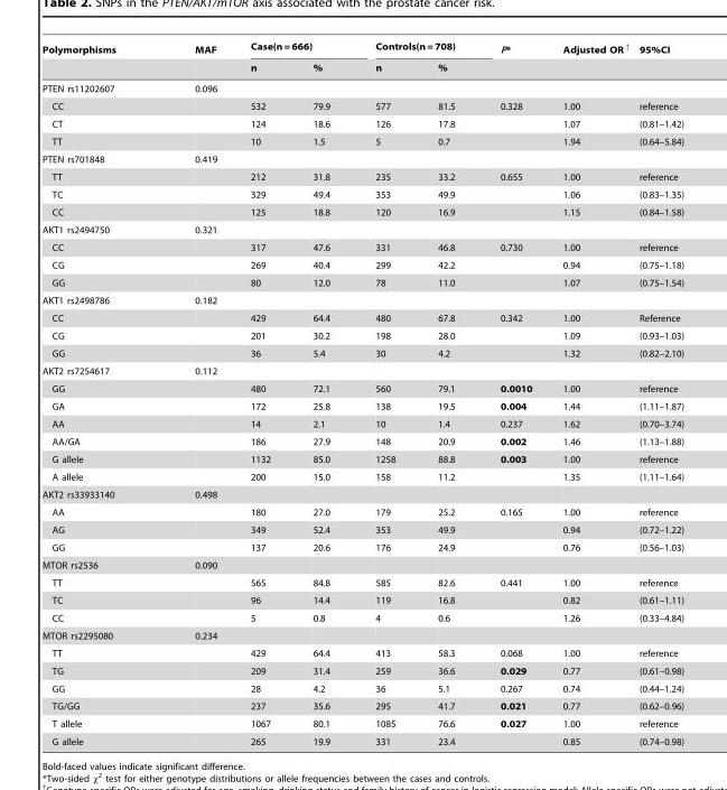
<table><thead><tr><td rowspan="2">Polymorphisms</td><td rowspan="2">MAF</td><td colspan="2">Case(n = 666)</td><td colspan="2">Controls(n = 708)</td><td rowspan="2">P*</td><td rowspan="2">Adjusted OR<sup>↑</sup></td><td rowspan="2">95%CI</td></tr><tr><td>n</td><td>%</td><td>n</td><td>%</td></tr></thead><tbody><tr><td>PTEN rs11202607</td><td>0.096</td><td></td><td></td><td></td><td></td><td></td><td></td><td></td></tr><tr><td>CC</td><td></td><td>532</td><td>79.9</td><td>577</td><td>81.5</td><td>0.328</td><td>1.00</td><td>reference</td></tr><tr><td>CT</td><td></td><td>124</td><td>18.6</td><td>126</td><td>17.8</td><td></td><td>1.07</td><td>(0.81–1.42)</td></tr><tr><td>TT</td><td></td><td>10</td><td>1.5</td><td>5</td><td>0.7</td><td></td><td>1.94</td><td>(0.64–5.84)</td></tr><tr><td>PTEN rs701848</td><td>0.419</td><td></td><td></td><td></td><td></td><td></td><td></td><td></td></tr><tr><td>TT</td><td></td><td>212</td><td>31.8</td><td>235</td><td>33.2</td><td>0.655</td><td>1.00</td><td>reference</td></tr><tr><td>TC</td><td></td><td>329</td><td>49.4</td><td>353</td><td>49.9</td><td></td><td>1.06</td><td>(0.83–1.35)</td></tr><tr><td>CC</td><td></td><td>125</td><td>18.8</td><td>120</td><td>16.9</td><td></td><td>1.15</td><td>(0.84–1.58)</td></tr><tr><td>AKT1 rs2494750</td><td>0.321</td><td></td><td></td><td></td><td></td><td></td><td></td><td></td></tr><tr><td>CC</td><td></td><td>317</td><td>47.6</td><td>331</td><td>46.8</td><td>0.730</td><td>1.00</td><td>reference</td></tr><tr><td>CG</td><td></td><td>269</td><td>40.4</td><td>299</td><td>42.2</td><td></td><td>0.94</td><td>(0.75–1.18)</td></tr><tr><td>GG</td><td></td><td>80</td><td>12.0</td><td>78</td><td>11.0</td><td></td><td>1.07</td><td>(0.75–1.54)</td></tr><tr><td>AKT1 rs2498786</td><td>0.182</td><td></td><td></td><td></td><td></td><td></td><td></td><td></td></tr><tr><td>CC</td><td></td><td>429</td><td>64.4</td><td>480</td><td>67.8</td><td>0.342</td><td>1.00</td><td>Reference</td></tr><tr><td>CG</td><td></td><td>201</td><td>30.2</td><td>198</td><td>28.0</td><td></td><td>1.09</td><td>(0.93–1.03)</td></tr><tr><td>GG</td><td></td><td>36</td><td>5.4</td><td>30</td><td>4.2</td><td></td><td>1.32</td><td>(0.82–2.10)</td></tr><tr><td>AKT2 rs7254617</td><td>0.112</td><td></td><td></td><td></td><td></td><td></td><td></td><td></td></tr><tr><td>GG</td><td></td><td>480</td><td>72.1</td><td>560</td><td>79.1</td><td>0.0010</td><td>1.00</td><td>reference</td></tr><tr><td>GA</td><td></td><td>172</td><td>25.8</td><td>138</td><td>19.5</td><td>0.004</td><td>1.44</td><td>(1.11–1.87)</td></tr><tr><td>AA</td><td></td><td>14</td><td>2.1</td><td>10</td><td>1.4</td><td>0.237</td><td>1.62</td><td>(0.70–3.74)</td></tr><tr><td>AA/GA</td><td></td><td>186</td><td>27.9</td><td>148</td><td>20.9</td><td>0.002</td><td>1.46</td><td>(1.13–1.88)</td></tr><tr><td>G allele</td><td></td><td>1132</td><td>85.0</td><td>1258</td><td>88.8</td><td>0.003</td><td>1.00</td><td>reference</td></tr><tr><td>A allele</td><td></td><td>200</td><td>15.0</td><td>158</td><td>11.2</td><td></td><td>1.35</td><td>(1.11–1.64)</td></tr><tr><td>AKT2 rs33933140</td><td>0.498</td><td></td><td></td><td></td><td></td><td></td><td></td><td></td></tr><tr><td>AA</td><td></td><td>180</td><td>27.0</td><td>179</td><td>25.2</td><td>0.165</td><td>1.00</td><td>reference</td></tr><tr><td>AG</td><td></td><td>349</td><td>52.4</td><td>353</td><td>49.9</td><td></td><td>0.94</td><td>(0.72–1.22)</td></tr><tr><td>GG</td><td></td><td>137</td><td>20.6</td><td>176</td><td>24.9</td><td></td><td>0.76</td><td>(0.56–1.03)</td></tr><tr><td>MTOR rs2536</td><td>0.090</td><td></td><td></td><td></td><td></td><td></td><td></td><td></td></tr><tr><td>TT</td><td></td><td>565</td><td>84.8</td><td>585</td><td>82.6</td><td>0.441</td><td>1.00</td><td>reference</td></tr><tr><td>TC</td><td></td><td>96</td><td>14.4</td><td>119</td><td>16.8</td><td></td><td>0.82</td><td>(0.61–1.11)</td></tr><tr><td>CC</td><td></td><td>5</td><td>0.8</td><td>4</td><td>0.6</td><td></td><td>1.26</td><td>(0.33–4.84)</td></tr><tr><td>MTOR rs2295080</td><td>0.234</td><td></td><td></td><td></td><td></td><td></td><td></td><td></td></tr><tr><td>TT</td><td></td><td>429</td><td>64.4</td><td>413</td><td>58.3</td><td>0.068</td><td>1.00</td><td>reference</td></tr><tr><td>TG</td><td></td><td>209</td><td>31.4</td><td>259</td><td>36.6</td><td>0.029</td><td>0.77</td><td>(0.61–0.98)</td></tr><tr><td>GG</td><td></td><td>28</td><td>4.2</td><td>36</td><td>5.1</td><td>0.267</td><td>0.74</td><td>(0.44–1.24)</td></tr><tr><td>TG/GG</td><td></td><td>237</td><td>35.6</td><td>295</td><td>41.7</td><td>0.021</td><td>0.77</td><td>(0.62–0.96)</td></tr><tr><td>T allele</td><td></td><td>1067</td><td>80.1</td><td>1085</td><td>76.6</td><td>0.027</td><td>1.00</td><td>reference</td></tr><tr><td>G allele</td><td></td><td>265</td><td>19.9</td><td>331</td><td>23.4</td><td></td><td>0.85</td><td>(0.74–0.98)</td></tr></tbody></table>